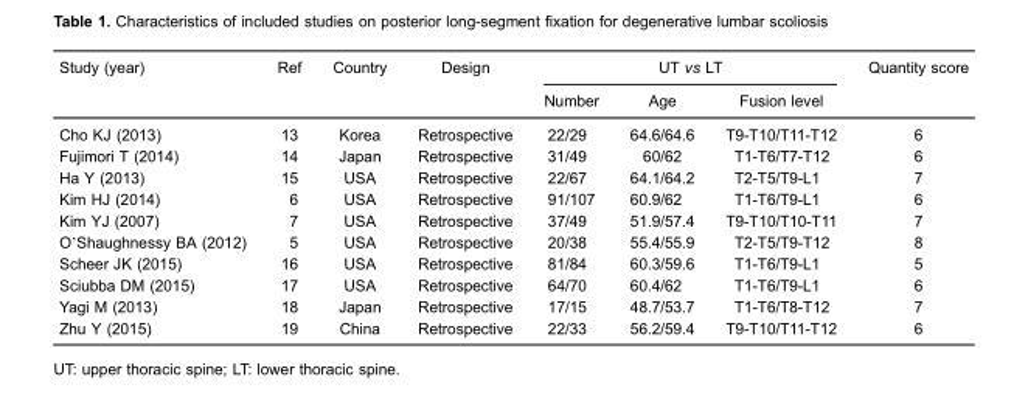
<table><thead><tr><td rowspan="2">Study (year)</td><td rowspan="2">Ref</td><td rowspan="2">Country</td><td rowspan="2">Design</td><td colspan="3">UT vs LT</td><td rowspan="2">Quantity score</td></tr><tr><td>Number</td><td>Age</td><td>Fusion level</td></tr></thead><tbody><tr><td>Cho KJ (2013)</td><td>13</td><td>Korea</td><td>Retrospective</td><td>22/29</td><td>64.6/64.6</td><td>T9-T10/T11-T12</td><td>6</td></tr><tr><td>Fujimori T (2014)</td><td>14</td><td>Japan</td><td>Retrospective</td><td>31/49</td><td>60/62</td><td>T1-T6/T7-T12</td><td>6</td></tr><tr><td>Ha Y (2013)</td><td>15</td><td>USA</td><td>Retrospective</td><td>22/67</td><td>64.1/64.2</td><td>T2-T5/T9-L1</td><td>7</td></tr><tr><td>Kim HJ (2014)</td><td>6</td><td>USA</td><td>Retrospective</td><td>91/107</td><td>60.9/62</td><td>T1-T6/T9-L1</td><td>6</td></tr><tr><td>Kim YJ (2007)</td><td>7</td><td>USA</td><td>Retrospective</td><td>37/49</td><td>51.9/57.4</td><td>T9-T10/T10-T11</td><td>7</td></tr><tr><td>O’Shaughnessy BA (2012)</td><td>5</td><td>USA</td><td>Retrospective</td><td>20/38</td><td>55.4/55.9</td><td>T2-T5/T9-T12</td><td>8</td></tr><tr><td>Scheer JK (2015)</td><td>16</td><td>USA</td><td>Retrospective</td><td>81/84</td><td>60.3/59.6</td><td>T1-T6/T9-L1</td><td>5</td></tr><tr><td>Sciubba DM (2015)</td><td>17</td><td>USA</td><td>Retrospective</td><td>64/70</td><td>60.4/62</td><td>T1-T6/T9-L1</td><td>6</td></tr><tr><td>Yagi M (2013)</td><td>18</td><td>Japan</td><td>Retrospective</td><td>17/15</td><td>48.7/53.7</td><td>T1-T6/T8-T12</td><td>7</td></tr><tr><td>Zhu Y (2015)</td><td>19</td><td>China</td><td>Retrospective</td><td>22/33</td><td>56.2/59.4</td><td>T9-T10/T11-T12</td><td>6</td></tr></tbody></table>